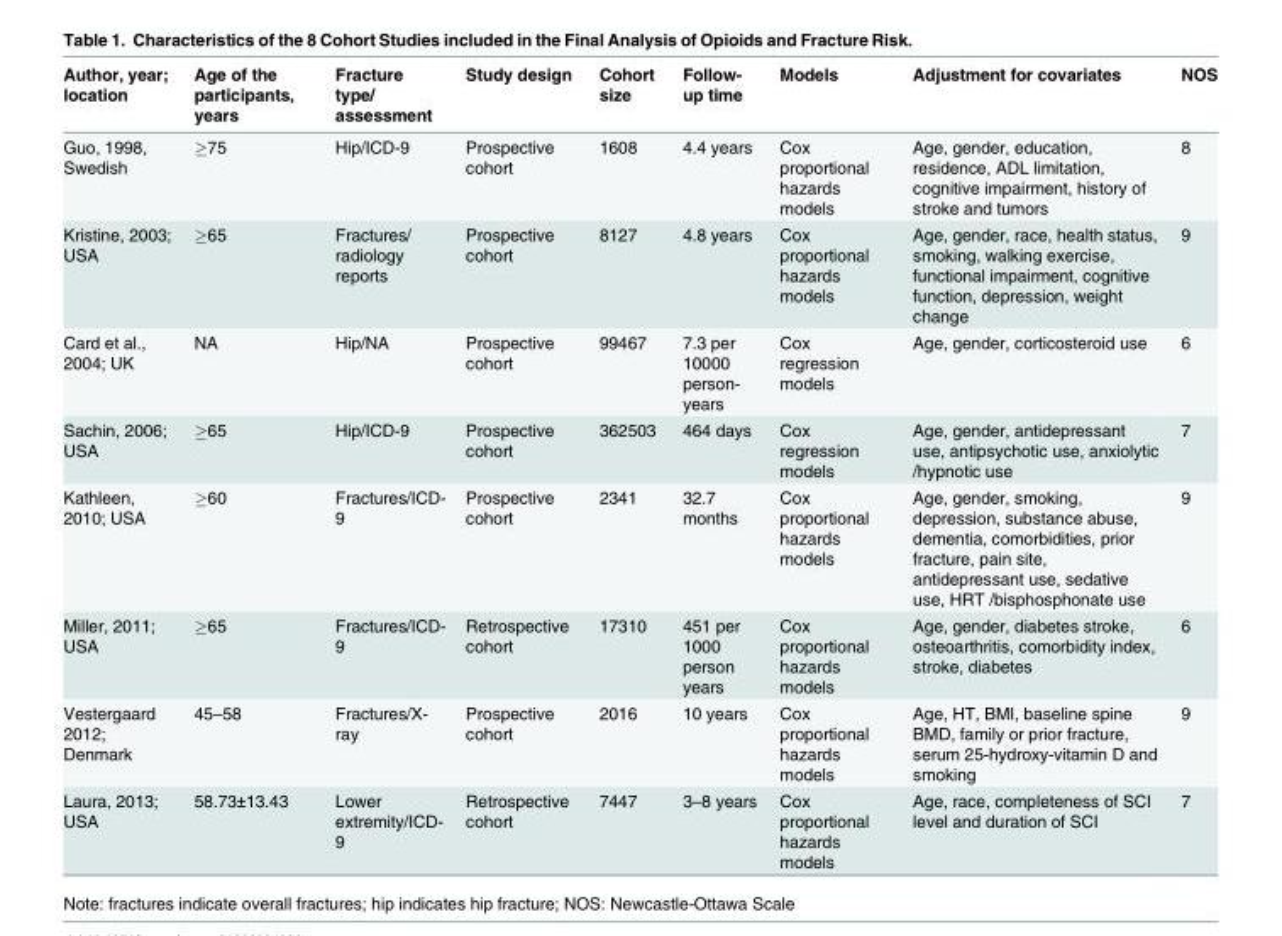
<table><thead><tr><td>Author, year; location</td><td>Age of the participants, years</td><td>Fracture type/ assessment</td><td>Study design</td><td>Cohort size</td><td>Follow- up time</td><td>Models</td><td>Adjustment for covariates</td><td>NOS</td></tr></thead><tbody><tr><td>Guo, 1998, Swedish</td><td>≥75</td><td>Hip/ICD-9</td><td>Prospective cohort</td><td>1608</td><td>4.4 years</td><td>Cox proportional hazards models</td><td>Age, gender, education, residence, ADL limitation, cognitive impairment, history of stroke and tumors</td><td>8</td></tr><tr><td>Kristine, 2003; USA</td><td>≥65</td><td>Fractures/ radiology reports</td><td>Prospective cohort</td><td>8127</td><td>4.8 years</td><td>Cox proportional hazards models</td><td>Age, gender, race, health status, smoking, walking exercise, functional impairment, cognitive function, depression, weight change</td><td>9</td></tr><tr><td>Card et al., 2004; UK</td><td>NA</td><td>Hip/NA</td><td>Prospective cohort</td><td>99467</td><td>7.3 per 10000 person- years</td><td>Cox regression models</td><td>Age, gender, corticosteroid use</td><td>6</td></tr><tr><td>Sachin, 2006; USA</td><td>≥65</td><td>Hip/ICD-9</td><td>Prospective cohort</td><td>362503</td><td>464 days</td><td>Cox regression models</td><td>Age, gender, antidepressant use, antipsychotic use, anxiolytic /hypnotic use</td><td>7</td></tr><tr><td>Kathleen, 2010; USA</td><td>≥60</td><td>Fractures/ICD- 9</td><td>Prospective cohort</td><td>2341</td><td>32.7 months</td><td>Cox proportional hazards models</td><td>Age, gender, smoking, depression, substance abuse, dementia, comorbidities, prior fracture, pain site, antidepressant use, sedative use, HRT /bisphosphonate use</td><td>9</td></tr><tr><td>Miller, 2011; USA</td><td>≥65</td><td>Fractures/ICD- 9</td><td>Retrospective cohort</td><td>17310</td><td>451 per 1000 person years</td><td>Cox proportional hazards models</td><td>Age, gender, diabetes stroke, osteoarthritis, comorbidity index, stroke, diabetes</td><td>6</td></tr><tr><td>Vestergaard 2012; Denmark</td><td>45–58</td><td>Fractures/X- ray</td><td>Prospective cohort</td><td>2016</td><td>10 years</td><td>Cox proportional hazards models</td><td>Age, HT, BMI, baseline spine BMD, family or prior fracture, serum 25-hydroxy-vitamin D and smoking</td><td>9</td></tr><tr><td>Laura, 2013; USA</td><td>58.73±13.43</td><td>Lower extremity/ICD- 9</td><td>Retrospective cohort</td><td>7447</td><td>3–8 years</td><td>Cox proportional hazards models</td><td>Age, race, completeness of SCI level and duration of SCI</td><td>7</td></tr></tbody></table>